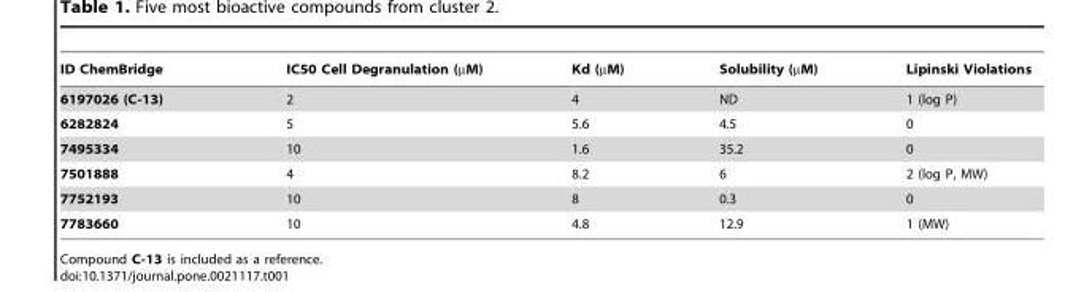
<table><thead><tr><td>ID ChemBridge</td><td>IC50 Cell Degranulation (µM)</td><td>Kd (µM)</td><td>Solubility (µM)</td><td>Lipinski Violations</td></tr></thead><tbody><tr><td>6197026 (C-13)</td><td>2</td><td>4</td><td>ND</td><td>1 (log P)</td></tr><tr><td>6282824</td><td>5</td><td>5.6</td><td>4.5</td><td>0</td></tr><tr><td>7495334</td><td>10</td><td>1.6</td><td>35.2</td><td>0</td></tr><tr><td>7501888</td><td>4</td><td>8.2</td><td>6</td><td>2 (log P, MW)</td></tr><tr><td>7752193</td><td>10</td><td>8</td><td>0.3</td><td>0</td></tr><tr><td>7783660</td><td>10</td><td>4.8</td><td>12.9</td><td>1 (MW)</td></tr></tbody></table>